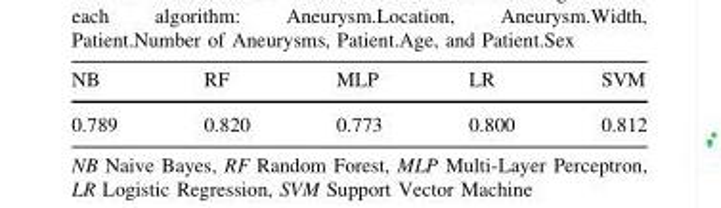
<table><thead><tr><td>NB</td><td>RF</td><td>MLP</td><td>LR</td><td>SVM</td></tr></thead><tbody><tr><td>0.789</td><td>0.820</td><td>0.773</td><td>0.800</td><td>0.812</td></tr></tbody></table>